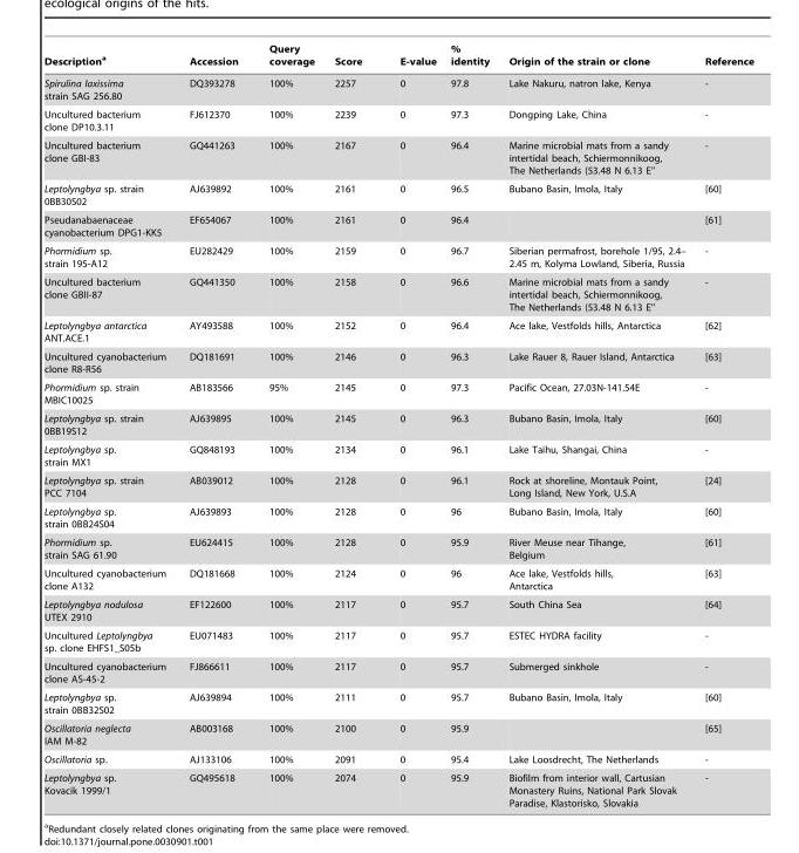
<table><thead><tr><td>Description<sup>a</sup></td><td>Accession</td><td>Query coverage</td><td>Score</td><td>E-value</td><td>% identity</td><td>Origin of the strain or clone</td><td>Reference</td></tr></thead><tbody><tr><td>Spirulina laxissima strain SAG 256.80</td><td>DQ393278</td><td>100%</td><td>2257</td><td>0</td><td>97.8</td><td>Lake Nakuru, natron lake, Kenya</td><td>-</td></tr><tr><td>Uncultured bacterium clone DP10.3.11</td><td>FJ612370</td><td>100%</td><td>2239</td><td>0</td><td>97.3</td><td>Dongping Lake, China</td><td>-</td></tr><tr><td>Uncultured bacterium clone GBI-83</td><td>GQ441263</td><td>100%</td><td>2167</td><td>0</td><td>96.4</td><td>Marine microbial mats from a sandy intertidal beach, Schiermonnikoog, The Netherlands (53.48 N 6.13 E’’</td><td>-</td></tr><tr><td>Leptolyngbya sp. strain 0BB30S02</td><td>AJ639892</td><td>100%</td><td>2161</td><td>0</td><td>96.5</td><td>Bubano Basin, Imola, Italy</td><td>[60]</td></tr><tr><td>Pseudanabaenaceae cyanobacterium DPG1-KK5</td><td>EF654067</td><td>100%</td><td>2161</td><td>0</td><td>96.4</td><td></td><td>[61]</td></tr><tr><td>Phormidium sp. strain 195-A12</td><td>EU282429</td><td>100%</td><td>2159</td><td>0</td><td>96.7</td><td>Siberian permafrost, borehole 1/95, 2.4– 2.45 m, Kolyma Lowland, Siberia, Russia</td><td>-</td></tr><tr><td>Uncultured bacterium clone GBII-87</td><td>GQ441350</td><td>100%</td><td>2158</td><td>0</td><td>96.6</td><td>Marine microbial mats from a sandy intertidal beach, Schiermonnikoog, The Netherlands (53.48 N 6.13 E’’</td><td>-</td></tr><tr><td>Leptolyngbya antarctica ANT.ACE.1</td><td>AY493588</td><td>100%</td><td>2152</td><td>0</td><td>96.4</td><td>Ace lake, Vestfolds hills, Antarctica</td><td>[62]</td></tr><tr><td>Uncultured cyanobacterium clone R8-R56</td><td>DQ181691</td><td>100%</td><td>2146</td><td>0</td><td>96.3</td><td>Lake Rauer 8, Rauer Island, Antarctica</td><td>[63]</td></tr><tr><td>Phormidium sp. strain MBIC10025</td><td>AB183566</td><td>95%</td><td>2145</td><td>0</td><td>97.3</td><td>Pacific Ocean, 27.03N-141.54E</td><td>-</td></tr><tr><td>Leptolyngbya sp. strain 0BB19S12</td><td>AJ639895</td><td>100%</td><td>2145</td><td>0</td><td>96.3</td><td>Bubano Basin, Imola, Italy</td><td>[60]</td></tr><tr><td>Leptolyngbya sp. strain MX1</td><td>GQ848193</td><td>100%</td><td>2134</td><td>0</td><td>96.1</td><td>Lake Taihu, Shangai, China</td><td>-</td></tr><tr><td>Leptolyngbya sp. strain PCC 7104</td><td>AB039012</td><td>100%</td><td>2128</td><td>0</td><td>96.1</td><td>Rock at shoreline, Montauk Point, Long Island, New York, U.S.A</td><td>[24]</td></tr><tr><td>Leptolyngbya sp. strain 0BB24S04</td><td>AJ639893</td><td>100%</td><td>2128</td><td>0</td><td>96</td><td>Bubano Basin, Imola, Italy</td><td>[60]</td></tr><tr><td>Phormidium sp. strain SAG 61.90</td><td>EU624415</td><td>100%</td><td>2128</td><td>0</td><td>95.9</td><td>River Meuse near Tihange, Belgium</td><td>[61]</td></tr><tr><td>Uncultured cyanobacterium clone A132</td><td>DQ181668</td><td>100%</td><td>2124</td><td>0</td><td>96</td><td>Ace lake, Vestfolds hills, Antarctica</td><td>[63]</td></tr><tr><td>Leptolyngbya nodulosa UTEX 2910</td><td>EF122600</td><td>100%</td><td>2117</td><td>0</td><td>95.7</td><td>South China Sea</td><td>[64]</td></tr><tr><td>Uncultured Leptolyngbya sp. clone EHFS1_S05b</td><td>EU071483</td><td>100%</td><td>2117</td><td>0</td><td>95.7</td><td>ESTEC HYDRA facility</td><td>-</td></tr><tr><td>Uncultured cyanobacterium clone AS-45-2</td><td>FJ866611</td><td>100%</td><td>2117</td><td>0</td><td>95.7</td><td>Submerged sinkhole</td><td>-</td></tr><tr><td>Leptolyngbya sp. strain 0BB32S02</td><td>AJ639894</td><td>100%</td><td>2111</td><td>0</td><td>95.7</td><td>Bubano Basin, Imola, Italy</td><td>[60]</td></tr><tr><td>Oscillatoria neglecta IAM M-82</td><td>AB003168</td><td>100%</td><td>2100</td><td>0</td><td>95.9</td><td></td><td>[65]</td></tr><tr><td>Oscillatoria sp.</td><td>AJ133106</td><td>100%</td><td>2091</td><td>0</td><td>95.4</td><td>Lake Loosdrecht, The Netherlands</td><td>-</td></tr><tr><td>Leptolyngbya sp. Kovacik 1999/1</td><td>GQ495618</td><td>100%</td><td>2074</td><td>0</td><td>95.9</td><td>Biofilm from interior wall, Cartusian Monastery Ruins, National Park Slovak Paradise, Klastorisko, Slovakia</td><td>-</td></tr></tbody></table>